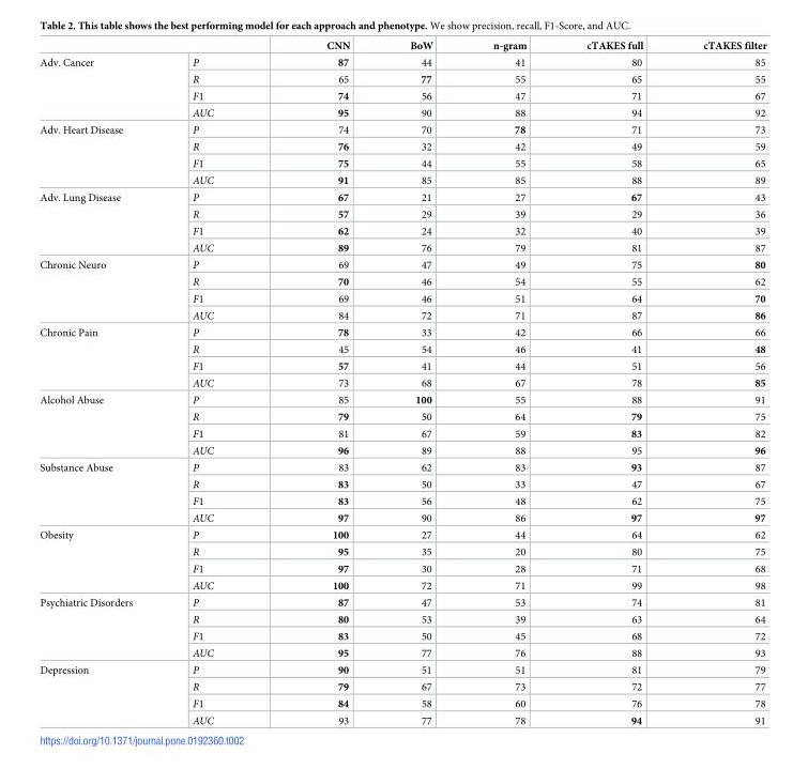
<table><thead><tr><td></td><td></td><td>CNN</td><td>BoW</td><td>n-gram</td><td>cTAKES full</td><td>cTAKES filter</td></tr></thead><tbody><tr><td rowspan="4">Adv. Cancer</td><td>P</td><td>87</td><td>44</td><td>41</td><td>80</td><td>85</td></tr><tr><td>R</td><td>65</td><td>77</td><td>55</td><td>65</td><td>55</td></tr><tr><td>F1</td><td>74</td><td>56</td><td>47</td><td>71</td><td>67</td></tr><tr><td>AUC</td><td>95</td><td>90</td><td>88</td><td>94</td><td>92</td></tr><tr><td rowspan="4">Adv. Heart Disease</td><td>P</td><td>74</td><td>70</td><td>78</td><td>71</td><td>73</td></tr><tr><td>R</td><td>76</td><td>32</td><td>42</td><td>49</td><td>59</td></tr><tr><td>F1</td><td>75</td><td>44</td><td>55</td><td>58</td><td>65</td></tr><tr><td>AUC</td><td>91</td><td>85</td><td>85</td><td>88</td><td>89</td></tr><tr><td rowspan="4">Adv. Lung Disease</td><td>P</td><td>67</td><td>21</td><td>27</td><td>67</td><td>43</td></tr><tr><td>R</td><td>57</td><td>29</td><td>39</td><td>29</td><td>36</td></tr><tr><td>F1</td><td>62</td><td>24</td><td>32</td><td>40</td><td>39</td></tr><tr><td>AUC</td><td>89</td><td>76</td><td>79</td><td>81</td><td>87</td></tr><tr><td rowspan="4">Chronic Neuro</td><td>P</td><td>69</td><td>47</td><td>49</td><td>75</td><td>80</td></tr><tr><td>R</td><td>70</td><td>46</td><td>54</td><td>55</td><td>62</td></tr><tr><td>F1</td><td>69</td><td>46</td><td>51</td><td>64</td><td>70</td></tr><tr><td>AUC</td><td>84</td><td>72</td><td>71</td><td>87</td><td>86</td></tr><tr><td rowspan="4">Chronic Pain</td><td>P</td><td>78</td><td>33</td><td>42</td><td>66</td><td>66</td></tr><tr><td>R</td><td>45</td><td>54</td><td>46</td><td>41</td><td>48</td></tr><tr><td>F1</td><td>57</td><td>41</td><td>44</td><td>51</td><td>56</td></tr><tr><td>AUC</td><td>73</td><td>68</td><td>67</td><td>78</td><td>85</td></tr><tr><td rowspan="4">Alcohol Abuse</td><td>P</td><td>85</td><td>100</td><td>55</td><td>88</td><td>91</td></tr><tr><td>R</td><td>79</td><td>50</td><td>64</td><td>79</td><td>75</td></tr><tr><td>F1</td><td>81</td><td>67</td><td>59</td><td>83</td><td>82</td></tr><tr><td>AUC</td><td>96</td><td>89</td><td>88</td><td>95</td><td>96</td></tr><tr><td rowspan="4">Substance Abuse</td><td>P</td><td>83</td><td>62</td><td>83</td><td>93</td><td>87</td></tr><tr><td>R</td><td>83</td><td>50</td><td>33</td><td>47</td><td>67</td></tr><tr><td>F1</td><td>83</td><td>56</td><td>48</td><td>62</td><td>75</td></tr><tr><td>AUC</td><td>97</td><td>90</td><td>86</td><td>97</td><td>97</td></tr><tr><td rowspan="4">Obesity</td><td>P</td><td>100</td><td>27</td><td>44</td><td>64</td><td>62</td></tr><tr><td>R</td><td>95</td><td>35</td><td>20</td><td>80</td><td>75</td></tr><tr><td>F1</td><td>97</td><td>30</td><td>28</td><td>71</td><td>68</td></tr><tr><td>AUC</td><td>100</td><td>72</td><td>71</td><td>99</td><td>98</td></tr><tr><td rowspan="4">Psychiatric Disorders</td><td>P</td><td>87</td><td>47</td><td>53</td><td>74</td><td>81</td></tr><tr><td>R</td><td>80</td><td>53</td><td>39</td><td>63</td><td>64</td></tr><tr><td>F1</td><td>83</td><td>50</td><td>45</td><td>68</td><td>72</td></tr><tr><td>AUC</td><td>95</td><td>77</td><td>76</td><td>88</td><td>93</td></tr><tr><td rowspan="4">Depression</td><td>P</td><td>90</td><td>51</td><td>51</td><td>81</td><td>79</td></tr><tr><td>R</td><td>79</td><td>67</td><td>73</td><td>72</td><td>77</td></tr><tr><td>F1</td><td>84</td><td>58</td><td>60</td><td>76</td><td>78</td></tr><tr><td>AUC</td><td>93</td><td>77</td><td>78</td><td>94</td><td>91</td></tr></tbody></table>